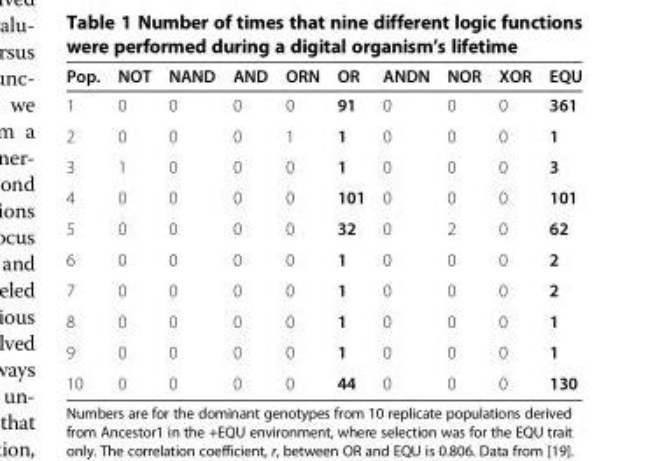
<table><thead><tr><td>Pop.</td><td>NOT</td><td>NAND</td><td>AND</td><td>ORN</td><td>OR</td><td>ANDN</td><td>NOR</td><td>XOR</td><td>EQU</td></tr></thead><tbody><tr><td>1</td><td>0</td><td>0</td><td>0</td><td>0</td><td>91</td><td>0</td><td>0</td><td>0</td><td>361</td></tr><tr><td>2</td><td>0</td><td>0</td><td>0</td><td>1</td><td>1</td><td>0</td><td>0</td><td>0</td><td>1</td></tr><tr><td>3</td><td>1</td><td>0</td><td>0</td><td>0</td><td>1</td><td>0</td><td>0</td><td>0</td><td>3</td></tr><tr><td>4</td><td>0</td><td>0</td><td>0</td><td>0</td><td>101</td><td>0</td><td>0</td><td>0</td><td>101</td></tr><tr><td>5</td><td>0</td><td>0</td><td>0</td><td>0</td><td>32</td><td>0</td><td>2</td><td>0</td><td>62</td></tr><tr><td>6</td><td>0</td><td>0</td><td>0</td><td>0</td><td>1</td><td>0</td><td>0</td><td>0</td><td>2</td></tr><tr><td>7</td><td>0</td><td>0</td><td>0</td><td>0</td><td>1</td><td>0</td><td>0</td><td>0</td><td>2</td></tr><tr><td>8</td><td>0</td><td>0</td><td>0</td><td>0</td><td>1</td><td>0</td><td>0</td><td>0</td><td>1</td></tr><tr><td>9</td><td>0</td><td>0</td><td>0</td><td>0</td><td>1</td><td>0</td><td>0</td><td>0</td><td>1</td></tr><tr><td>10</td><td>0</td><td>0</td><td>0</td><td>0</td><td>44</td><td>0</td><td>0</td><td>0</td><td>130</td></tr></tbody></table>